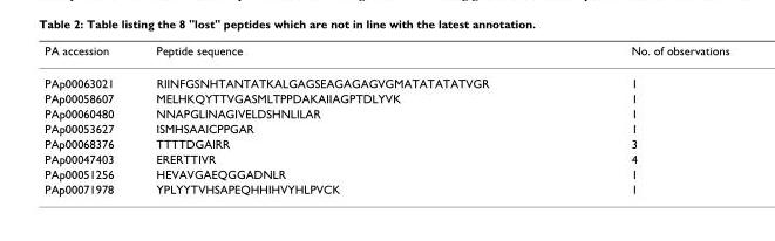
<table><thead><tr><td>PA accession</td><td>Peptide sequence</td><td>No. of observations</td></tr></thead><tbody><tr><td>PAp00063021</td><td>RIINFGSNHTANTATKALGAGSEAGAGAGVGMATATATATVGR</td><td>1</td></tr><tr><td>PAp00058607</td><td>MELHKQYTTVGASMLTPPDAKAIIAGPTDLYVK</td><td>1</td></tr><tr><td>PAp00060480</td><td>NNAPGLINAGIVELDSHNLILAR</td><td>1</td></tr><tr><td>PAp00053627</td><td>ISMHSAAICPPGAR</td><td>1</td></tr><tr><td>PAp00068376</td><td>TTTTDGAIRR</td><td>3</td></tr><tr><td>PAp00047403</td><td>ERERTTIVR</td><td>4</td></tr><tr><td>PAp00051256</td><td>HEVAVGAEQGGADNLR</td><td>1</td></tr><tr><td>PAp00071978</td><td>YPLYYTVHSAPEQHHIHVYHLPVCK</td><td>1</td></tr></tbody></table>